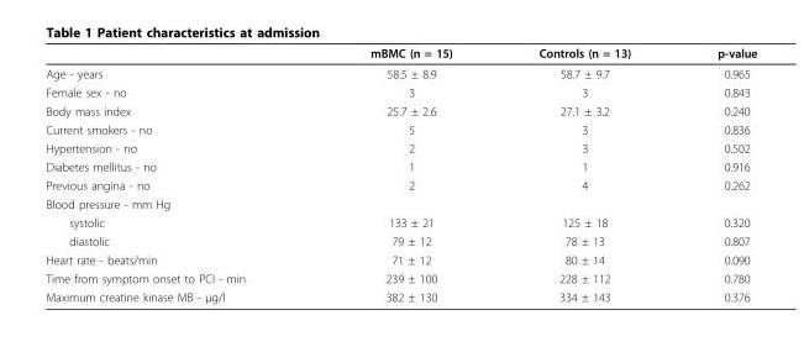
<table><thead><tr><td></td><td>mBMC (n = 15)</td><td>Controls (n = 13)</td><td>p-value</td></tr></thead><tbody><tr><td>Age - years</td><td>58.5 ± 8.9</td><td>58.7 ± 9.7</td><td>0.965</td></tr><tr><td>Female sex - no</td><td>3</td><td>3</td><td>0.843</td></tr><tr><td>Body mass index</td><td>25.7 ± 2.6</td><td>27.1 ± 3.2</td><td>0.240</td></tr><tr><td>Current smokers - no</td><td>5</td><td>3</td><td>0.836</td></tr><tr><td>Hypertension - no</td><td>2</td><td>3</td><td>0.502</td></tr><tr><td>Diabetes mellitus - no</td><td>1</td><td>1</td><td>0.916</td></tr><tr><td>Previous angina - no</td><td>2</td><td>4</td><td>0.262</td></tr><tr><td colspan="4">Blood pressure - mm Hg</td></tr><tr><td>systolic</td><td>133 ± 21</td><td>125 ± 18</td><td>0.320</td></tr><tr><td>diastolic</td><td>79 ± 12</td><td>78 ± 13</td><td>0.807</td></tr><tr><td>Heart rate - beats/min</td><td>71 ± 12</td><td>80 ± 14</td><td>0.090</td></tr><tr><td>Time from symptom onset to PCI - min</td><td>239 ± 100</td><td>228 ± 112</td><td>0.780</td></tr><tr><td>Maximum creatine kinase MB - μg/l</td><td>382 ± 130</td><td>334 ± 143</td><td>0.376</td></tr></tbody></table>